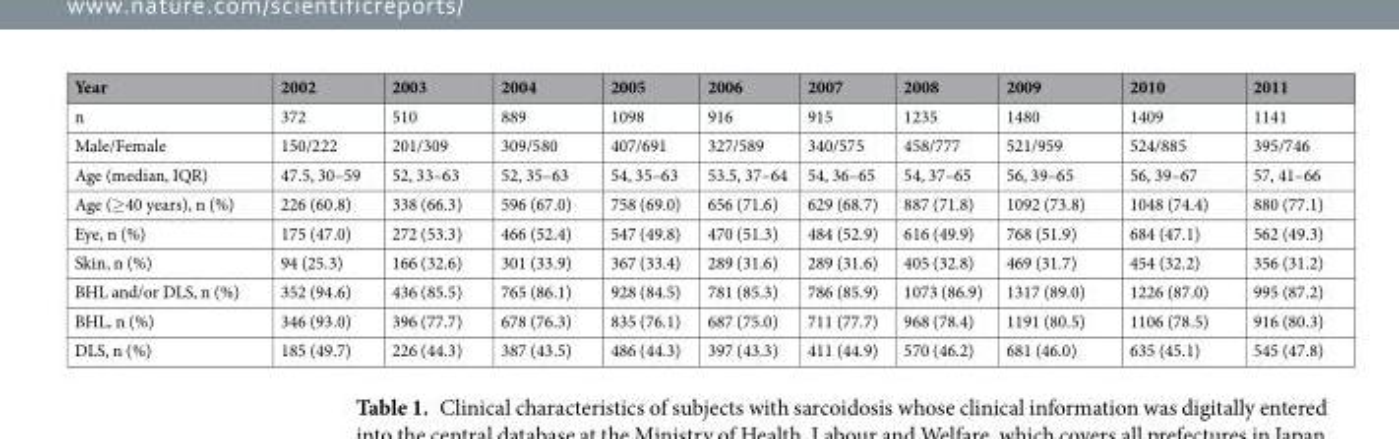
<table><thead><tr><td>Year</td><td>2002</td><td>2003</td><td>2004</td><td>2005</td><td>2006</td><td>2007</td><td>2008</td><td>2009</td><td>2010</td><td>2011</td></tr></thead><tbody><tr><td>n</td><td>372</td><td>510</td><td>889</td><td>1098</td><td>916</td><td>915</td><td>1235</td><td>1480</td><td>1409</td><td>1141</td></tr><tr><td>Male/Female</td><td>150/222</td><td>201/309</td><td>309/580</td><td>407/691</td><td>327/589</td><td>340/575</td><td>458/777</td><td>521/959</td><td>524/885</td><td>395/746</td></tr><tr><td>Age (median, IQR)</td><td>47.5, 30–59</td><td>52, 33–63</td><td>52, 35–63</td><td>54, 35–63</td><td>53.5, 37–64</td><td>54, 36–65</td><td>54, 37–65</td><td>56, 39–65</td><td>56, 39–67</td><td>57, 41–66</td></tr><tr><td>Age (≥40 years), n (%)</td><td>226 (60.8)</td><td>338 (66.3)</td><td>596 (67.0)</td><td>758 (69.0)</td><td>656 (71.6)</td><td>629 (68.7)</td><td>887 (71.8)</td><td>1092 (73.8)</td><td>1048 (74.4)</td><td>880 (77.1)</td></tr><tr><td>Eye, n (%)</td><td>175 (47.0)</td><td>272 (53.3)</td><td>466 (52.4)</td><td>547 (49.8)</td><td>470 (51.3)</td><td>484 (52.9)</td><td>616 (49.9)</td><td>768 (51.9)</td><td>684 (47.1)</td><td>562 (49.3)</td></tr><tr><td>Skin, n (%)</td><td>94 (25.3)</td><td>166 (32.6)</td><td>301 (33.9)</td><td>367 (33.4)</td><td>289 (31.6)</td><td>289 (31.6)</td><td>405 (32.8)</td><td>469 (31.7)</td><td>454 (32.2)</td><td>356 (31.2)</td></tr><tr><td>BHL and/or DLS, n (%)</td><td>352 (94.6)</td><td>436 (85.5)</td><td>765 (86.1)</td><td>928 (84.5)</td><td>781 (85.3)</td><td>786 (85.9)</td><td>1073 (86.9)</td><td>1317 (89.0)</td><td>1226 (87.0)</td><td>995 (87.2)</td></tr><tr><td>BHL, n (%)</td><td>346 (93.0)</td><td>396 (77.7)</td><td>678 (76.3)</td><td>835 (76.1)</td><td>687 (75.0)</td><td>711 (77.7)</td><td>968 (78.4)</td><td>1191 (80.5)</td><td>1106 (78.5)</td><td>916 (80.3)</td></tr><tr><td>DLS, n (%)</td><td>185 (49.7)</td><td>226 (44.3)</td><td>387 (43.5)</td><td>486 (44.3)</td><td>397 (43.3)</td><td>411 (44.9)</td><td>570 (46.2)</td><td>681 (46.0)</td><td>635 (45.1)</td><td>545 (47.8)</td></tr></tbody></table>